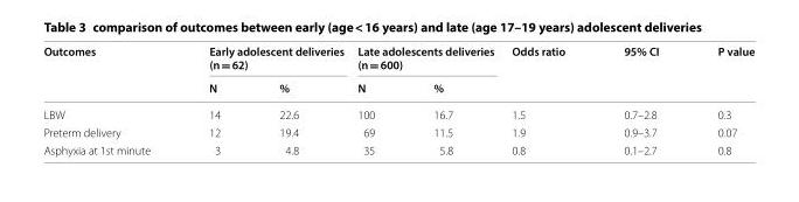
<table><thead><tr><td rowspan="2">Outcomes</td><td colspan="2">Early adolescent deliveries (n = 62)</td><td colspan="2">Late adolescents deliveries (n = 600)</td><td rowspan="2">Odds ratio</td><td rowspan="2">95% CI</td><td rowspan="2">P value</td></tr><tr><td>N</td><td>%</td><td>N</td><td>%</td></tr></thead><tbody><tr><td>LBW</td><td>14</td><td>22.6</td><td>100</td><td>16.7</td><td>1.5</td><td>0.7–2.8</td><td>0.3</td></tr><tr><td>Preterm delivery</td><td>12</td><td>19.4</td><td>69</td><td>11.5</td><td>1.9</td><td>0.9–3.7</td><td>0.07</td></tr><tr><td>Asphyxia at 1st minute</td><td>3</td><td>4.8</td><td>35</td><td>5.8</td><td>0.8</td><td>0.1–2.7</td><td>0.8</td></tr></tbody></table>